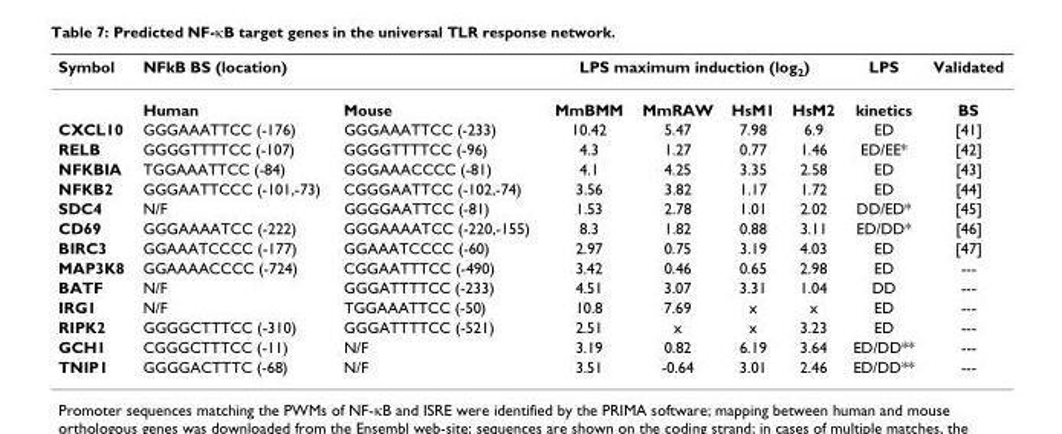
<table><thead><tr><td rowspan="2">Symbol</td><td colspan="2">NFkB BS (location)</td><td colspan="4">LPS maximum induction (log<sub>2</sub>)</td><td rowspan="2">LPS kinetics</td><td rowspan="2">Validated BS</td></tr><tr><td>Human</td><td>Mouse</td><td>MmBMM</td><td>MmRAW</td><td>HsM1</td><td>HsM2</td></tr></thead><tbody><tr><td>CXCL10</td><td>GGGAAATTCC (-176)</td><td>GGGAAATTCC (-233)</td><td>10.42</td><td>5.47</td><td>7.98</td><td>6.9</td><td>ED</td><td>[41]</td></tr><tr><td>RELB</td><td>GGGGTTTTCC (-107)</td><td>GGGGTTTTCC (-96)</td><td>4.3</td><td>1.27</td><td>0.77</td><td>1.46</td><td>ED/EE*</td><td>[42]</td></tr><tr><td>NFKBIA</td><td>TGGAAATTCC (-84)</td><td>GGGAAACCCC (-81)</td><td>4.1</td><td>4.25</td><td>3.35</td><td>2.58</td><td>ED</td><td>[43]</td></tr><tr><td>NFKB2</td><td>GGGAATTCCC (-101,-73)</td><td>CGGGAATTCC (-102,-74)</td><td>3.56</td><td>3.82</td><td>1.17</td><td>1.72</td><td>ED</td><td>[44]</td></tr><tr><td>SDC4</td><td>N/F</td><td>GGGGAATTCC (-81)</td><td>1.53</td><td>2.78</td><td>1.01</td><td>2.02</td><td>DD/ED*</td><td>[45]</td></tr><tr><td>CD69</td><td>GGGAAAATCC (-222)</td><td>GGGAAAATCC (-220,-155)</td><td>8.3</td><td>1.82</td><td>0.88</td><td>3.11</td><td>ED/DD*</td><td>[46]</td></tr><tr><td>BIRC3</td><td>GGAAATCCCC (-177)</td><td>GGAAATCCCC (-60)</td><td>2.97</td><td>0.75</td><td>3.19</td><td>4.03</td><td>ED</td><td>[47]</td></tr><tr><td>MAP3K8</td><td>GGAAAACCCC (-724)</td><td>CGGAATTTCC (-490)</td><td>3.42</td><td>0.46</td><td>0.65</td><td>2.98</td><td>ED</td><td>---</td></tr><tr><td>BATF</td><td>N/F</td><td>GGGATTTTCC (-233)</td><td>4.51</td><td>3.07</td><td>3.31</td><td>1.04</td><td>DD</td><td>---</td></tr><tr><td>IRG1</td><td>N/F</td><td>TGGAAATTCC (-50)</td><td>10.8</td><td>7.69</td><td>x</td><td>x</td><td>ED</td><td>---</td></tr><tr><td>RIPK2</td><td>GGGGCTTTCC (-310)</td><td>GGGATTTTCC (-521)</td><td>2.51</td><td>x</td><td>x</td><td>3.23</td><td>ED</td><td>---</td></tr><tr><td>GCH1</td><td>CGGGCTTTCC (-11)</td><td>N/F</td><td>3.19</td><td>0.82</td><td>6.19</td><td>3.64</td><td>ED/DD**</td><td>---</td></tr><tr><td>TNIP1</td><td>GGGGACTTTC (-68)</td><td>N/F</td><td>3.51</td><td>-0.64</td><td>3.01</td><td>2.46</td><td>ED/DD**</td><td>---</td></tr></tbody></table>